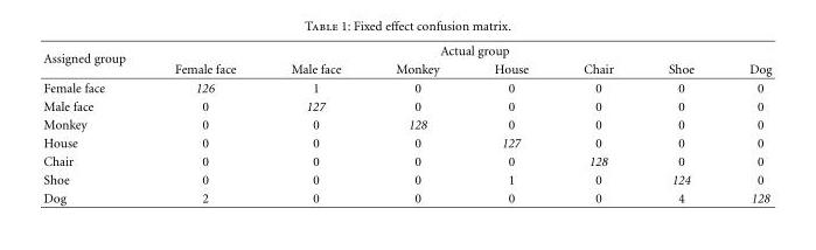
<table><thead><tr><td rowspan="2">Assigned group</td><td colspan="7">Actual group</td></tr><tr><td>Female face</td><td>Male face</td><td>Monkey</td><td>House</td><td>Chair</td><td>Shoe</td><td>Dog</td></tr></thead><tbody><tr><td>Female face</td><td>126</td><td>1</td><td>0</td><td>0</td><td>0</td><td>0</td><td>0</td></tr><tr><td>Male face</td><td>0</td><td>127</td><td>0</td><td>0</td><td>0</td><td>0</td><td>0</td></tr><tr><td>Monkey</td><td>0</td><td>0</td><td>128</td><td>0</td><td>0</td><td>0</td><td>0</td></tr><tr><td>House</td><td>0</td><td>0</td><td>0</td><td>127</td><td>0</td><td>0</td><td>0</td></tr><tr><td>Chair</td><td>0</td><td>0</td><td>0</td><td>0</td><td>128</td><td>0</td><td>0</td></tr><tr><td>Shoe</td><td>0</td><td>0</td><td>0</td><td>1</td><td>0</td><td>124</td><td>0</td></tr><tr><td>Dog</td><td>2</td><td>0</td><td>0</td><td>0</td><td>0</td><td>4</td><td>128</td></tr></tbody></table>